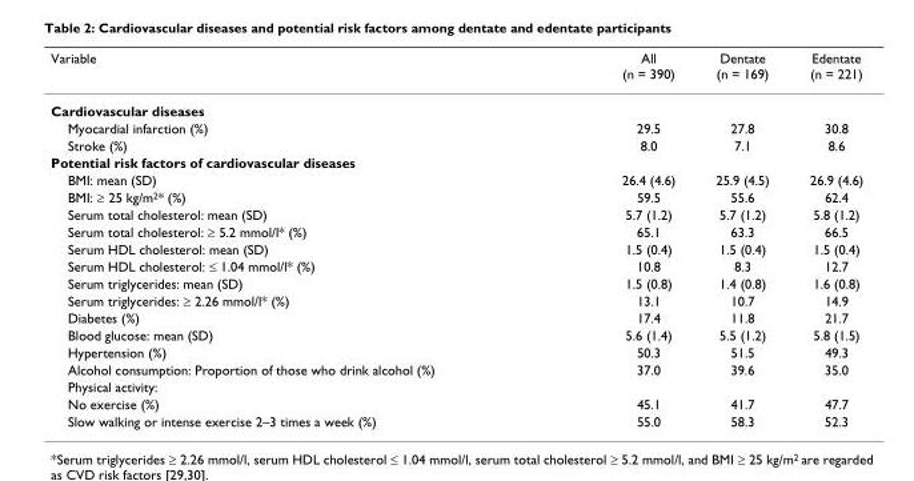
<table><thead><tr><td>Variable</td><td>All (n = 390)</td><td>Dentate (n = 169)</td><td>Edentate (n = 221)</td></tr></thead><tbody><tr><td colspan="4">Cardiovascular diseases</td></tr><tr><td>Myocardial infarction (%)</td><td>29.5</td><td>27.8</td><td>30.8</td></tr><tr><td>Stroke (%)</td><td>8.0</td><td>7.1</td><td>8.6</td></tr><tr><td colspan="4">Potential risk factors of cardiovascular diseases</td></tr><tr><td>BMI: mean (SD)</td><td>26.4 (4.6)</td><td>25.9 (4.5)</td><td>26.9 (4.6)</td></tr><tr><td>BMI: ≥ 25 kg/m<sup>2</sup>* (%)</td><td>59.5</td><td>55.6</td><td>62.4</td></tr><tr><td>Serum total cholesterol: mean (SD)</td><td>5.7 (1.2)</td><td>5.7 (1.2)</td><td>5.8 (1.2)</td></tr><tr><td>Serum total cholesterol: ≥ 5.2 mmol/l* (%)</td><td>65.1</td><td>63.3</td><td>66.5</td></tr><tr><td>Serum HDL cholesterol: mean (SD)</td><td>1.5 (0.4)</td><td>1.5 (0.4)</td><td>1.5 (0.4)</td></tr><tr><td>Serum HDL cholesterol: ≤ 1.04 mmol/l* (%)</td><td>10.8</td><td>8.3</td><td>12.7</td></tr><tr><td>Serum triglycerides: mean (SD)</td><td>1.5 (0.8)</td><td>1.4 (0.8)</td><td>1.6 (0.8)</td></tr><tr><td>Serum triglycerides: ≥ 2.26 mmol/l* (%)</td><td>13.1</td><td>10.7</td><td>14.9</td></tr><tr><td>Diabetes (%)</td><td>17.4</td><td>11.8</td><td>21.7</td></tr><tr><td>Blood glucose: mean (SD)</td><td>5.6 (1.4)</td><td>5.5 (1.2)</td><td>5.8 (1.5)</td></tr><tr><td>Hypertension (%)</td><td>50.3</td><td>51.5</td><td>49.3</td></tr><tr><td>Alcohol consumption: Proportion of those who drink alcohol (%)</td><td>37.0</td><td>39.6</td><td>35.0</td></tr><tr><td colspan="4">Physical activity:</td></tr><tr><td>No exercise (%)</td><td>45.1</td><td>41.7</td><td>47.7</td></tr><tr><td>Slow walking or intense exercise 2–3 times a week (%)</td><td>55.0</td><td>58.3</td><td>52.3</td></tr></tbody></table>